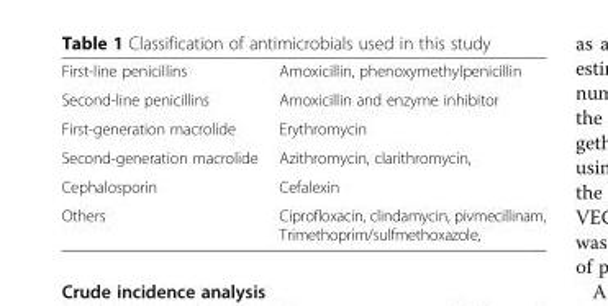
<table><tbody><tr><td>First-line penicillins</td><td>Amoxicillin, phenoxymethylpenicillin</td></tr><tr><td>Second-line penicillins</td><td>Amoxicillin and enzyme inhibitor</td></tr><tr><td>First-generation macrolide</td><td>Erythromycin</td></tr><tr><td>Second-generation macrolide</td><td>Azithromycin, clarithromycin,</td></tr><tr><td>Cephalosporin</td><td>Cefalexin</td></tr><tr><td>Others</td><td>Ciprofloxacin, clindamycin, pivmecillinam, Trimethoprim/sulfmethoxazole,</td></tr></tbody></table>